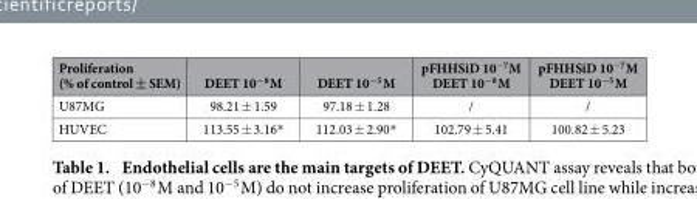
<table><thead><tr><td>Proliferation (% of control ± SEM)</td><td>DEET 10<sup>−8</sup> M</td><td>DEET 10<sup>−5</sup> M</td><td>pFHHSiD 10<sup>−7</sup> M DEET 10<sup>−8</sup> M</td><td>pFHHSiD 10<sup>−7</sup> M DEET 10<sup>−5</sup> M</td></tr></thead><tbody><tr><td>U87MG</td><td>98.21 ± 1.59</td><td>97.18 ± 1.28</td><td>/</td><td>/</td></tr><tr><td>HUVEC</td><td>113.55 ± 3.16*</td><td>112.03 ± 2.90*</td><td>102.79 ± 5.41</td><td>100.82 ± 5.23</td></tr></tbody></table>